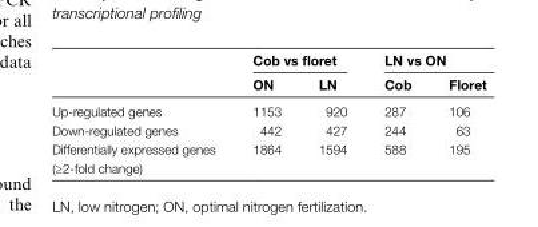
<table><thead><tr><td rowspan="2"></td><td colspan="2">Cob vs floret</td><td colspan="2">LN vs ON</td></tr><tr><td>ON</td><td>LN</td><td>Cob</td><td>Floret</td></tr></thead><tbody><tr><td>Up-regulated genes</td><td>1153</td><td>920</td><td>287</td><td>106</td></tr><tr><td>Down-regulated genes</td><td>442</td><td>427</td><td>244</td><td>63</td></tr><tr><td>Differentially expressed genes (≥2-fold change)</td><td>1864</td><td>1594</td><td>588</td><td>195</td></tr></tbody></table>